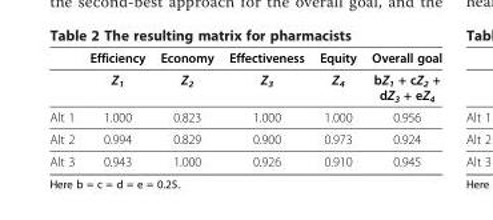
<table><thead><tr><td></td><td>Efficiency</td><td>Economy</td><td>Effectiveness</td><td>Equity</td><td>Overall goal</td></tr></thead><tbody><tr><td></td><td>Z<sub>1</sub></td><td>Z<sub>2</sub></td><td>Z<sub>3</sub></td><td>Z<sub>4</sub></td><td>bZ1 + cZ2 + dZ3 + eZ4</td></tr><tr><td>Alt 1</td><td>1.000</td><td>0.823</td><td>1.000</td><td>1.000</td><td>0.956</td></tr><tr><td>Alt 2</td><td>0.994</td><td>0.829</td><td>0.900</td><td>0.973</td><td>0.924</td></tr><tr><td>Alt 3</td><td>0.943</td><td>1.000</td><td>0.926</td><td>0.910</td><td>0.945</td></tr></tbody></table>